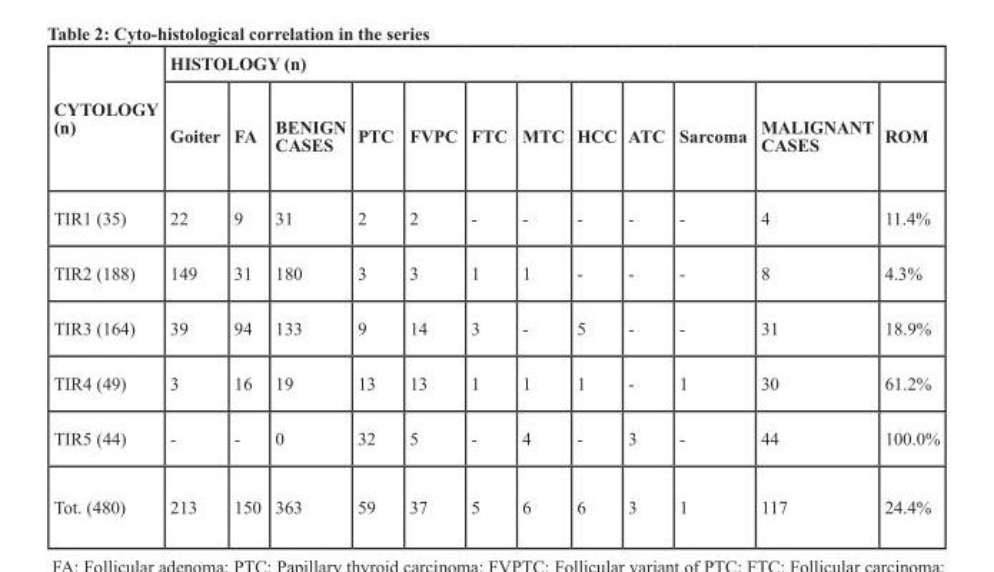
<table><thead><tr><td rowspan="2">CYTOLOGY (n)</td><td colspan="12">HISTOLOGY (n)</td></tr><tr><td>Goiter</td><td>FA</td><td>BENIGN CASES</td><td>PTC</td><td>FVPC</td><td>FTC</td><td>MTC</td><td>HCC</td><td>ATC</td><td>Sarcoma</td><td>MALIGNANT CASES</td><td>ROM</td></tr></thead><tbody><tr><td>TIR1 (35)</td><td>22</td><td>9</td><td>31</td><td>2</td><td>2</td><td>-</td><td>-</td><td>-</td><td>-</td><td>-</td><td>4</td><td>11.4%</td></tr><tr><td>TIR2 (188)</td><td>149</td><td>31</td><td>180</td><td>3</td><td>3</td><td>1</td><td>1</td><td>-</td><td>-</td><td>-</td><td>8</td><td>4.3%</td></tr><tr><td>TIR3 (164)</td><td>39</td><td>94</td><td>133</td><td>9</td><td>14</td><td>3</td><td>-</td><td>5</td><td>-</td><td>-</td><td>31</td><td>18.9%</td></tr><tr><td>TIR4 (49)</td><td>3</td><td>16</td><td>19</td><td>13</td><td>13</td><td>1</td><td>1</td><td>1</td><td>-</td><td>1</td><td>30</td><td>61.2%</td></tr><tr><td>TIR5 (44)</td><td>-</td><td>-</td><td>0</td><td>32</td><td>5</td><td>-</td><td>4</td><td>-</td><td>3</td><td>-</td><td>44</td><td>100.0%</td></tr><tr><td>Tot. (480)</td><td>213</td><td>150</td><td>363</td><td>59</td><td>37</td><td>5</td><td>6</td><td>6</td><td>3</td><td>1</td><td>117</td><td>24.4%</td></tr></tbody></table>